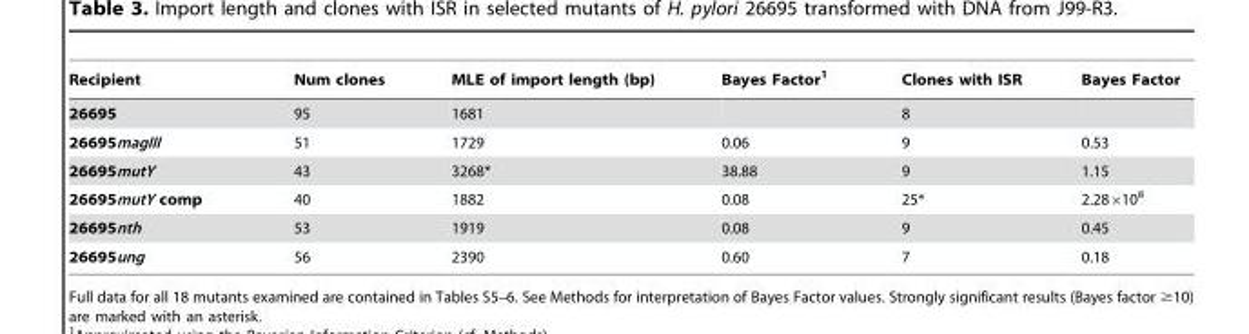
<table><thead><tr><td>Recipient</td><td>Num clones</td><td>MLE of import length (bp)</td><td>Bayes Factor<sup>1</sup></td><td>Clones with ISR</td><td>Bayes Factor</td></tr></thead><tbody><tr><td>26695</td><td>95</td><td>1681</td><td></td><td>8</td><td></td></tr><tr><td>26695magIII</td><td>51</td><td>1729</td><td>0.06</td><td>9</td><td>0.53</td></tr><tr><td>26695mutY</td><td>43</td><td>3268*</td><td>38.88</td><td>9</td><td>1.15</td></tr><tr><td>26695mutY comp</td><td>40</td><td>1882</td><td>0.08</td><td>25*</td><td>2.28×10<sup>8</sup></td></tr><tr><td>26695nth</td><td>53</td><td>1919</td><td>0.08</td><td>9</td><td>0.45</td></tr><tr><td>26695ung</td><td>56</td><td>2390</td><td>0.60</td><td>7</td><td>0.18</td></tr></tbody></table>